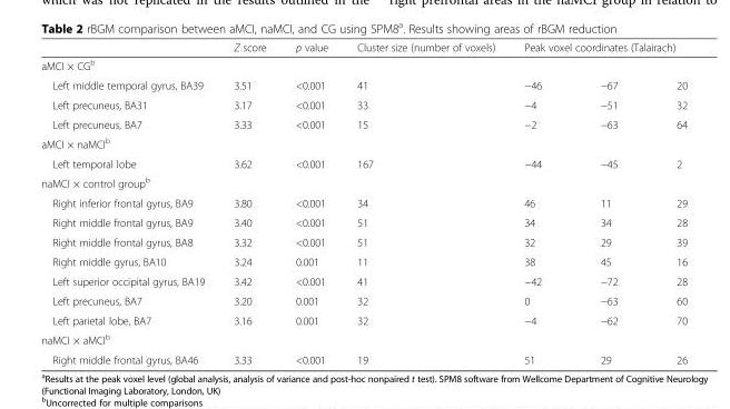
<table><thead><tr><td></td><td>Z score</td><td>p value</td><td>Cluster size (number of voxels)</td><td colspan="3">Peak voxel coordinates (Talairach)</td></tr><tr><td colspan="7">aMCI × CG<sup>b</sup></td></tr><tr><td>Left middle temporal gyrus, BA39</td><td>3.51</td><td>&lt;0.001</td><td>41</td><td>−46</td><td>−67</td><td>20</td></tr></thead><tbody><tr><td>Left precuneus, BA31</td><td>3.17</td><td>&lt;0.001</td><td>33</td><td>−4</td><td>−51</td><td>32</td></tr><tr><td>Left precuneus, BA7</td><td>3.33</td><td>&lt;0.001</td><td>15</td><td>−2</td><td>−63</td><td>64</td></tr><tr><td colspan="7">aMCI × naMCI<sup>b</sup></td></tr><tr><td>Left temporal lobe</td><td>3.62</td><td>&lt;0.001</td><td>167</td><td>−44</td><td>−45</td><td>2</td></tr><tr><td colspan="7">naMCI × control group<sup>b</sup></td></tr><tr><td>Right inferior frontal gyrus, BA9</td><td>3.80</td><td>&lt;0.001</td><td>34</td><td>46</td><td>11</td><td>29</td></tr><tr><td>Right middle frontal gyrus, BA9</td><td>3.40</td><td>&lt;0.001</td><td>51</td><td>34</td><td>34</td><td>28</td></tr><tr><td>Right middle frontal gyrus, BA8</td><td>3.32</td><td>&lt;0.001</td><td>51</td><td>32</td><td>29</td><td>39</td></tr><tr><td>Right middle gyrus, BA10</td><td>3.24</td><td>0.001</td><td>11</td><td>38</td><td>45</td><td>16</td></tr><tr><td>Left superior occipital gyrus, BA19</td><td>3.42</td><td>&lt;0.001</td><td>41</td><td>−42</td><td>−72</td><td>28</td></tr><tr><td>Left precuneus, BA7</td><td>3.20</td><td>0.001</td><td>32</td><td>0</td><td>−63</td><td>60</td></tr><tr><td>Left parietal lobe, BA7</td><td>3.16</td><td>0.001</td><td>32</td><td>−4</td><td>−62</td><td>70</td></tr><tr><td colspan="7">naMCI × aMCI<sup>b</sup></td></tr><tr><td>Right middle frontal gyrus, BA46</td><td>3.33</td><td>&lt;0.001</td><td>19</td><td>51</td><td>29</td><td>26</td></tr></tbody></table>